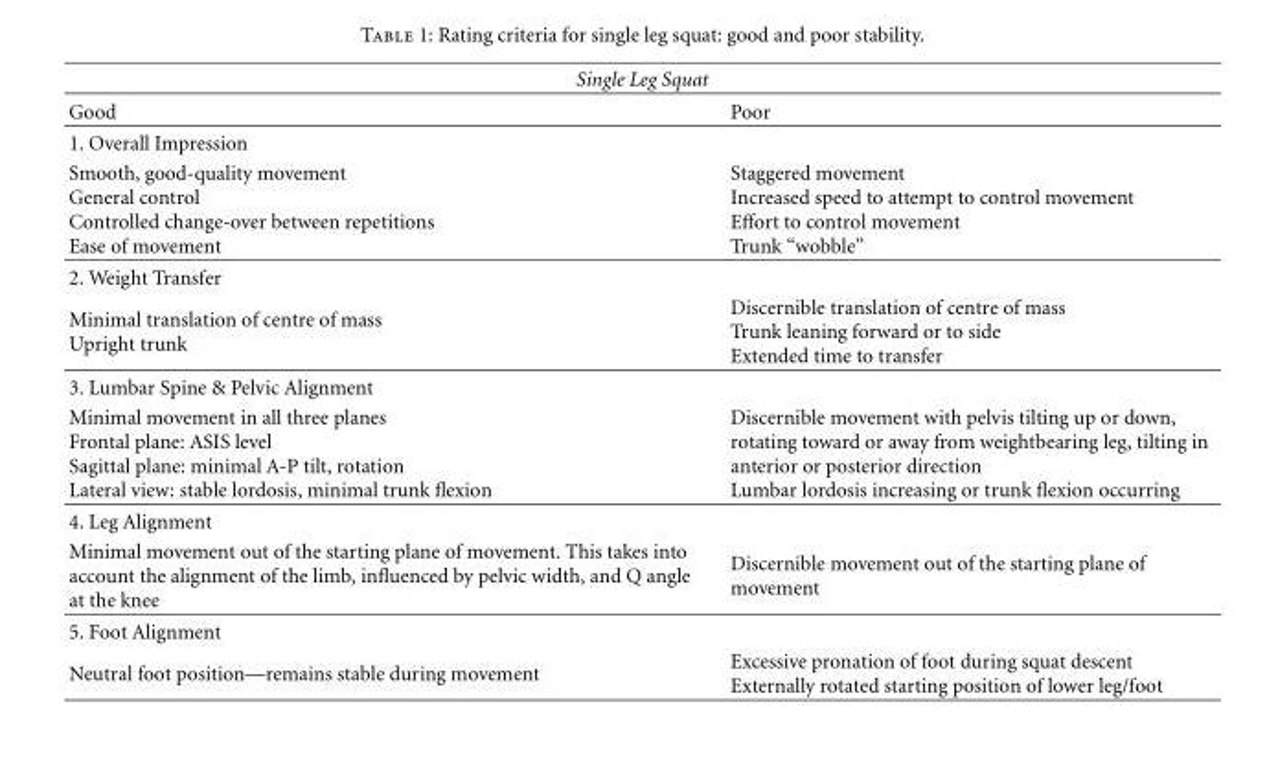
<table><thead><tr><td colspan="2">Single Leg Squat</td></tr><tr><td>Good</td><td>Poor</td></tr></thead><tbody><tr><td colspan="2">1. Overall Impression</td></tr><tr><td>Smooth, good-quality movement General control Controlled change-over between repetitions Ease of movement</td><td>Staggered movement Increased speed to attempt to control movement Effort to control movement Trunk “wobble”</td></tr><tr><td colspan="2">2. Weight Transfer</td></tr><tr><td>Minimal translation of centre of mass Upright trunk</td><td>Discernible translation of centre of mass Trunk leaning forward or to side Extended time to transfer</td></tr><tr><td colspan="2">3. Lumbar Spine &amp; Pelvic Alignment</td></tr><tr><td>Minimal movement in all three planes Frontal plane: ASIS level Sagittal plane: minimal A-P tilt, rotation Lateral view: stable lordosis, minimal trunk flexion</td><td>Discernible movement with pelvis tilting up or down, rotating toward or away from weightbearing leg, tilting in anterior or posterior direction Lumbar lordosis increasing or trunk flexion occurring</td></tr><tr><td colspan="2">4. Leg Alignment</td></tr><tr><td>Minimal movement out of the starting plane of movement. This takes into account the alignment of the limb, influenced by pelvic width, and Q angle at the knee</td><td>Discernible movement out of the starting plane of movement</td></tr><tr><td colspan="2">5. Foot Alignment</td></tr><tr><td>Neutral foot position—remains stable during movement</td><td>Excessive pronation of foot during squat descent Externally rotated starting position of lower leg/foot</td></tr></tbody></table>